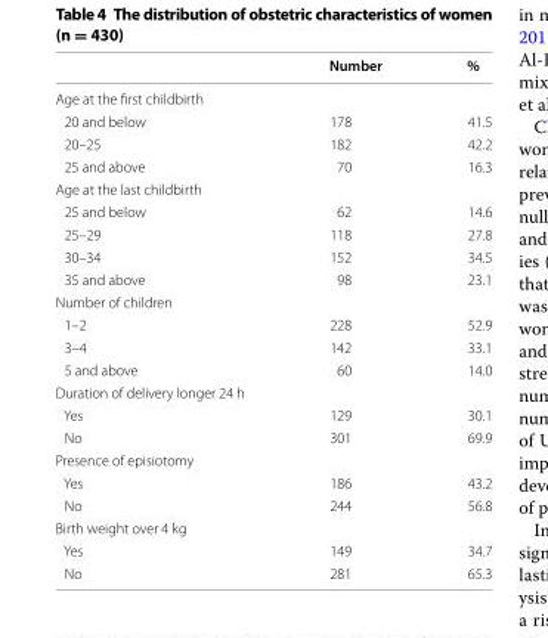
<table><thead><tr><td></td><td>Number</td><td>%</td></tr></thead><tbody><tr><td colspan="3">Age at the first childbirth</td></tr><tr><td>20 and below</td><td>178</td><td>41.5</td></tr><tr><td>20–25</td><td>182</td><td>42.2</td></tr><tr><td>25 and above</td><td>70</td><td>16.3</td></tr><tr><td colspan="3">Age at the last childbirth</td></tr><tr><td>25 and below</td><td>62</td><td>14.6</td></tr><tr><td>25–29</td><td>118</td><td>27.8</td></tr><tr><td>30–34</td><td>152</td><td>34.5</td></tr><tr><td>35 and above</td><td>98</td><td>23.1</td></tr><tr><td colspan="3">Number of children</td></tr><tr><td>1–2</td><td>228</td><td>52.9</td></tr><tr><td>3–4</td><td>142</td><td>33.1</td></tr><tr><td>5 and above</td><td>60</td><td>14.0</td></tr><tr><td colspan="3">Duration of delivery longer 24 h</td></tr><tr><td>Yes</td><td>129</td><td>30.1</td></tr><tr><td>No</td><td>301</td><td>69.9</td></tr><tr><td colspan="3">Presence of episiotomy</td></tr><tr><td>Yes</td><td>186</td><td>43.2</td></tr><tr><td>No</td><td>244</td><td>56.8</td></tr><tr><td colspan="3">Birth weight over 4 kg</td></tr><tr><td>Yes</td><td>149</td><td>34.7</td></tr><tr><td>No</td><td>281</td><td>65.3</td></tr></tbody></table>